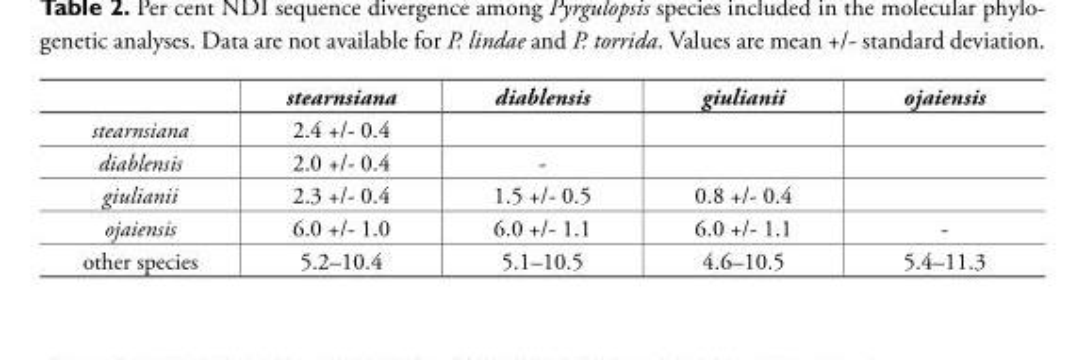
<table><thead><tr><td></td><td>stearnsiana</td><td>diablensis</td><td>giulianii</td><td>ojaiensis</td></tr></thead><tbody><tr><td>stearnsiana</td><td>2.4 +/- 0.4</td><td></td><td></td><td></td></tr><tr><td>diablensis</td><td>2.0 +/- 0.4</td><td>-</td><td></td><td></td></tr><tr><td>giulianii</td><td>2.3 +/- 0.4</td><td>1.5 +/- 0.5</td><td>0.8 +/- 0.4</td><td></td></tr><tr><td>ojaiensis</td><td>6.0 +/- 1.0</td><td>6.0 +/- 1.1</td><td>6.0 +/- 1.1</td><td>-</td></tr><tr><td>other species</td><td>5.2–10.4</td><td>5.1–10.5</td><td>4.6–10.5</td><td>5.4–11.3</td></tr></tbody></table>